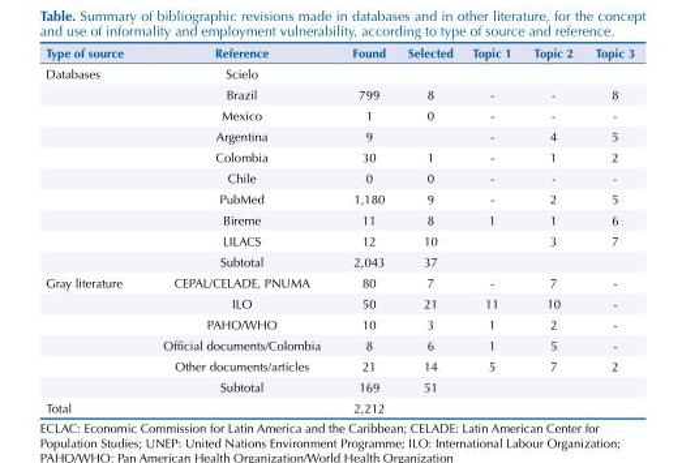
<table><thead><tr><td>Type of source</td><td>Reference</td><td>Found</td><td>Selected</td><td>Topic 1</td><td>Topic 2</td><td>Topic 3</td></tr></thead><tbody><tr><td rowspan="10">Databases</td><td>Scielo</td><td></td><td></td><td></td><td></td><td></td></tr><tr><td>Brazil</td><td>799</td><td>8</td><td>-</td><td>-</td><td>8</td></tr><tr><td>Mexico</td><td>1</td><td>0</td><td>-</td><td>-</td><td>-</td></tr><tr><td>Argentina</td><td>9</td><td></td><td>-</td><td>4</td><td>5</td></tr><tr><td>Colombia</td><td>30</td><td>1</td><td>-</td><td>1</td><td>2</td></tr><tr><td>Chile</td><td>0</td><td>0</td><td>-</td><td>-</td><td>-</td></tr><tr><td>PubMed</td><td>1,180</td><td>9</td><td>-</td><td>2</td><td>5</td></tr><tr><td>Bireme</td><td>11</td><td>8</td><td>1</td><td>1</td><td>6</td></tr><tr><td>LILACS</td><td>12</td><td>10</td><td></td><td>3</td><td>7</td></tr><tr><td>Subtotal</td><td>2,043</td><td>37</td><td></td><td></td><td></td></tr><tr><td rowspan="6">Gray literature</td><td>CEPAL/CELADE, PNUMA</td><td>80</td><td>7</td><td>-</td><td>7</td><td>-</td></tr><tr><td>ILO</td><td>50</td><td>21</td><td>11</td><td>10</td><td>-</td></tr><tr><td>PAHO/WHO</td><td>10</td><td>3</td><td>1</td><td>2</td><td>-</td></tr><tr><td>Official documents/Colombia</td><td>8</td><td>6</td><td>1</td><td>5</td><td>-</td></tr><tr><td>Other documents/articles</td><td>21</td><td>14</td><td>5</td><td>7</td><td>2</td></tr><tr><td>Subtotal</td><td>169</td><td>51</td><td></td><td></td><td></td></tr><tr><td>Total</td><td></td><td>2,212</td><td></td><td></td><td></td><td></td></tr></tbody></table>